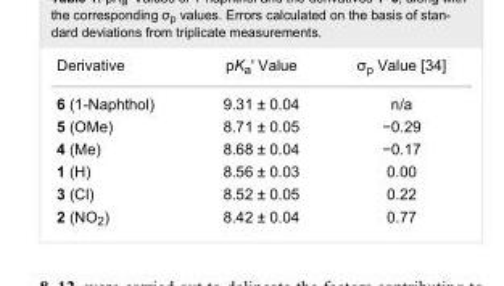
<table><tbody><tr><td>Derivative</td><td>pK<sub>a</sub>&#x27; Value</td><td>σ<sub>p</sub> Value [34]</td></tr><tr><td>6 (1-Naphthol)</td><td>9.31 ± 0.04</td><td>n/a</td></tr><tr><td>5 (OMe)</td><td>8.71 ± 0.05</td><td>−0.29</td></tr><tr><td>4 (Me)</td><td>8.68 ± 0.04</td><td>−0.17</td></tr><tr><td>1 (H)</td><td>8.56 ± 0.03</td><td>0.00</td></tr><tr><td>3 (Cl)</td><td>8.52 ± 0.05</td><td>0.22</td></tr><tr><td>2 (NO<sub>2</sub>)</td><td>8.42 ± 0.04</td><td>0.77</td></tr></tbody></table>